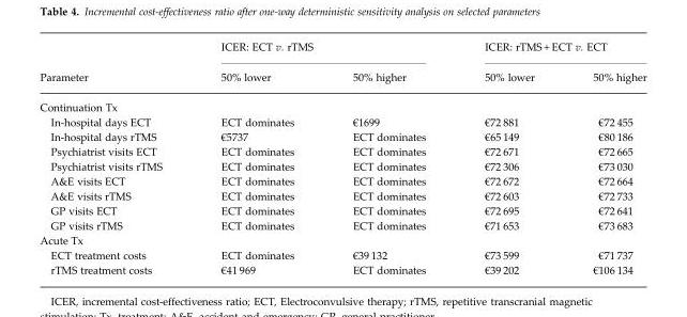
<table><thead><tr><td rowspan="2">Parameter</td><td colspan="2">ICER: ECT v. rTMS</td><td colspan="2">ICER: rTMS + ECT v. ECT</td></tr><tr><td>50% lower</td><td>50% higher</td><td>50% lower</td><td>50% higher</td></tr></thead><tbody><tr><td colspan="5">Continuation Tx</td></tr><tr><td>In-hospital days ECT</td><td>ECT dominates</td><td>€1699</td><td>€72 881</td><td>€72 455</td></tr><tr><td>In-hospital days rTMS</td><td>€5737</td><td>ECT dominates</td><td>€65 149</td><td>€80 186</td></tr><tr><td>Psychiatrist visits ECT</td><td>ECT dominates</td><td>ECT dominates</td><td>€72 671</td><td>€72 665</td></tr><tr><td>Psychiatrist visits rTMS</td><td>ECT dominates</td><td>ECT dominates</td><td>€72 306</td><td>€73 030</td></tr><tr><td>A&amp;E visits ECT</td><td>ECT dominates</td><td>ECT dominates</td><td>€72 672</td><td>€72 664</td></tr><tr><td>A&amp;E visits rTMS</td><td>ECT dominates</td><td>ECT dominates</td><td>€72 603</td><td>€72 733</td></tr><tr><td>GP visits ECT</td><td>ECT dominates</td><td>ECT dominates</td><td>€72 695</td><td>€72 641</td></tr><tr><td>GP visits rTMS</td><td>ECT dominates</td><td>ECT dominates</td><td>€71 653</td><td>€73 683</td></tr><tr><td colspan="5">Acute Tx</td></tr><tr><td>ECT treatment costs</td><td>ECT dominates</td><td>€39 132</td><td>€73 599</td><td>€71 737</td></tr><tr><td>rTMS treatment costs</td><td>€41 969</td><td>ECT dominates</td><td>€39 202</td><td>€106 134</td></tr></tbody></table>